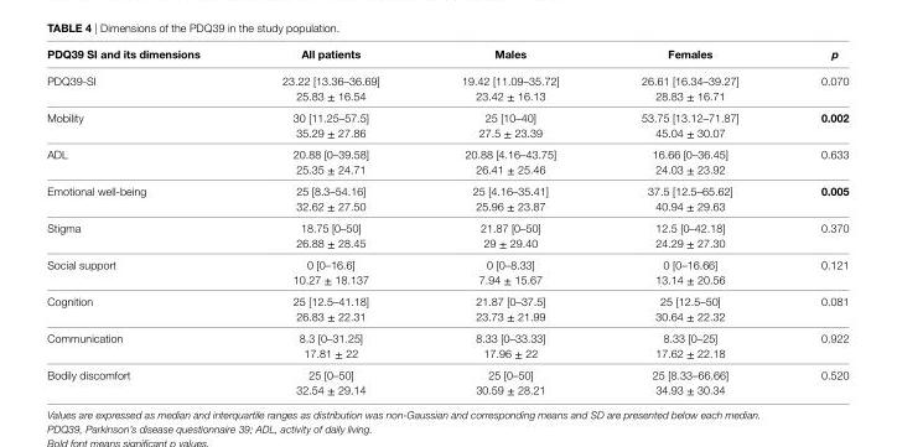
<table><thead><tr><td>PDQ39 si and its dimensions</td><td>all patients</td><td>Males</td><td>Females</td><td>p</td></tr></thead><tbody><tr><td>PDQ39-SI</td><td>23.22 [13.36–36.69] 25.83 ± 16.54</td><td>19.42 [11.09–35.72] 23.42 ± 16.13</td><td>26.61 [16.34–39.27] 28.83 ± 16.71</td><td>0.070</td></tr><tr><td>Mobility</td><td>30 [11.25–57.5] 35.29 ± 27.86</td><td>25 [10–40] 27.5 ± 23.39</td><td>53.75 [13.12–71.87] 45.04 ± 30.07</td><td>0.002</td></tr><tr><td>ADL</td><td>20.88 [0–39.58] 25.35 ± 24.71</td><td>20.88 [4.16–43.75] 26.41 ± 25.46</td><td>16.66 [0–36.45] 24.03 ± 23.92</td><td>0.633</td></tr><tr><td>Emotional well-being</td><td>25 [8.3–54.16] 32.62 ± 27.50</td><td>25 [4.16–35.41] 25.96 ± 23.87</td><td>37.5 [12.5–65.62] 40.94 ± 29.63</td><td>0.005</td></tr><tr><td>Stigma</td><td>18.75 [0–50] 26.88 ± 28.45</td><td>21.87 [0–50] 29 ± 29.40</td><td>12.5 [0–42.18] 24.29 ± 27.30</td><td>0.370</td></tr><tr><td>Social support</td><td>0 [0–16.6] 10.27 ± 18.137</td><td>0 [0–8.33] 7.94 ± 15.67</td><td>0 [0–16.66] 13.14 ± 20.56</td><td>0.121</td></tr><tr><td>Cognition</td><td>25 [12.5–41.18] 26.83 ± 22.31</td><td>21.87 [0–37.5] 23.73 ± 21.99</td><td>25 [12.5–50] 30.64 ± 22.32</td><td>0.081</td></tr><tr><td>Communication</td><td>8.3 [0–31.25] 17.81 ± 22</td><td>8.33 [0–33.33] 17.96 ± 22</td><td>8.33 [0–25] 17.62 ± 22.18</td><td>0.922</td></tr><tr><td>Bodily discomfort</td><td>25 [0–50] 32.54 ± 29.14</td><td>25 [0–50] 30.59 ± 28.21</td><td>25 [8.33–66.66] 34.93 ± 30.34</td><td>0.520</td></tr></tbody></table>